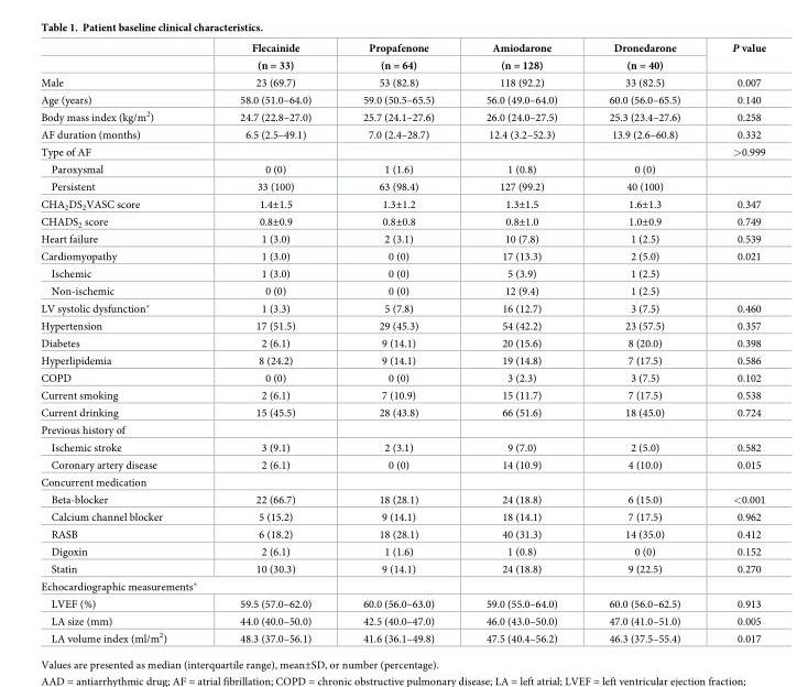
<table><thead><tr><td rowspan="2"></td><td rowspan="2">Flecainide (n = 33)</td><td rowspan="2">Propafenone (n = 64)</td><td rowspan="2">Amiodarone (n = 128)</td><td rowspan="2">Dronedarone (n = 40)</td><td rowspan="2">P value</td></tr><tr></tr></thead><tbody><tr><td>Male</td><td>23 (69.7)</td><td>53 (82.8)</td><td>118 (92.2)</td><td>33 (82.5)</td><td>0.007</td></tr><tr><td>Age (years)</td><td>58.0 (51.0–64.0)</td><td>59.0 (50.5–65.5)</td><td>56.0 (49.0–64.0)</td><td>60.0 (56.0–65.5)</td><td>0.140</td></tr><tr><td>Body mass index (kg/m<sup>2</sup>)</td><td>24.7 (22.8–27.0)</td><td>25.7 (24.1–27.6)</td><td>26.0 (24.0–27.5)</td><td>25.3 (23.4–27.6)</td><td>0.258</td></tr><tr><td>AF duration (months)</td><td>6.5 (2.5–49.1)</td><td>7.0 (2.4–28.7)</td><td>12.4 (3.2–52.3)</td><td>13.9 (2.6–60.8)</td><td>0.332</td></tr><tr><td>Type of AF</td><td></td><td></td><td></td><td></td><td>&gt;0.999</td></tr><tr><td>Paroxysmal</td><td>0 (0)</td><td>1 (1.6)</td><td>1 (0.8)</td><td>0 (0)</td><td></td></tr><tr><td>Persistent</td><td>33 (100)</td><td>63 (98.4)</td><td>127 (99.2)</td><td>40 (100)</td><td></td></tr><tr><td>CHA<sub>2</sub>DS<sub>2</sub>VASC score</td><td>1.4±1.5</td><td>1.3±1.2</td><td>1.3±1.5</td><td>1.6±1.3</td><td>0.347</td></tr><tr><td>CHADS<sub>2</sub> score</td><td>0.8±0.9</td><td>0.8±0.8</td><td>0.8±1.0</td><td>1.0±0.9</td><td>0.749</td></tr><tr><td>Heart failure</td><td>1 (3.0)</td><td>2 (3.1)</td><td>10 (7.8)</td><td>1 (2.5)</td><td>0.539</td></tr><tr><td>Cardiomyopathy</td><td>1 (3.0)</td><td>0 (0)</td><td>17 (13.3)</td><td>2 (5.0)</td><td>0.021</td></tr><tr><td>Ischemic</td><td>1 (3.0)</td><td>0 (0)</td><td>5 (3.9)</td><td>1 (2.5)</td><td></td></tr><tr><td>Non-ischemic</td><td>0 (0)</td><td>0 (0)</td><td>12 (9.4)</td><td>1 (2.5)</td><td></td></tr><tr><td>LV systolic dysfunction*</td><td>1 (3.3)</td><td>5 (7.8)</td><td>16 (12.7)</td><td>3 (7.5)</td><td>0.460</td></tr><tr><td>Hypertension</td><td>17 (51.5)</td><td>29 (45.3)</td><td>54 (42.2)</td><td>23 (57.5)</td><td>0.357</td></tr><tr><td>Diabetes</td><td>2 (6.1)</td><td>9 (14.1)</td><td>20 (15.6)</td><td>8 (20.0)</td><td>0.398</td></tr><tr><td>Hyperlipidemia</td><td>8 (24.2)</td><td>9 (14.1)</td><td>19 (14.8)</td><td>7 (17.5)</td><td>0.586</td></tr><tr><td>COPD</td><td>0 (0)</td><td>0 (0)</td><td>3 (2.3)</td><td>3 (7.5)</td><td>0.102</td></tr><tr><td>Current smoking</td><td>2 (6.1)</td><td>7 (10.9)</td><td>15 (11.7)</td><td>7 (17.5)</td><td>0.538</td></tr><tr><td>Current drinking</td><td>15 (45.5)</td><td>28 (43.8)</td><td>66 (51.6)</td><td>18 (45.0)</td><td>0.724</td></tr><tr><td colspan="6">Previous history of</td></tr><tr><td>Ischemic stroke</td><td>3 (9.1)</td><td>2 (3.1)</td><td>9 (7.0)</td><td>2 (5.0)</td><td>0.582</td></tr><tr><td>Coronary artery disease</td><td>2 (6.1)</td><td>0 (0)</td><td>14 (10.9)</td><td>4 (10.0)</td><td>0.015</td></tr><tr><td colspan="6">Concurrent medication</td></tr><tr><td>Beta-blocker</td><td>22 (66.7)</td><td>18 (28.1)</td><td>24 (18.8)</td><td>6 (15.0)</td><td>&lt;0.001</td></tr><tr><td>Calcium channel blocker</td><td>5 (15.2)</td><td>9 (14.1)</td><td>18 (14.1)</td><td>7 (17.5)</td><td>0.962</td></tr><tr><td>RASB</td><td>6 (18.2)</td><td>18 (28.1)</td><td>40 (31.3)</td><td>14 (35.0)</td><td>0.412</td></tr><tr><td>Digoxin</td><td>2 (6.1)</td><td>1 (1.6)</td><td>1 (0.8)</td><td>0 (0)</td><td>0.152</td></tr><tr><td>Statin</td><td>10 (30.3)</td><td>9 (14.1)</td><td>24 (18.8)</td><td>9 (22.5)</td><td>0.270</td></tr><tr><td colspan="6">Echocardiographic measurements*</td></tr><tr><td>LVEF (%)</td><td>59.5 (57.0–62.0)</td><td>60.0 (56.0–63.0)</td><td>59.0 (55.0–64.0)</td><td>60.0 (56.0–62.5)</td><td>0.913</td></tr><tr><td>LA size (mm)</td><td>44.0 (40.0–50.0)</td><td>42.5 (40.0–47.0)</td><td>46.0 (43.0–50.0)</td><td>47.0 (41.0–51.0)</td><td>0.005</td></tr><tr><td>LA volume index (ml/m<sup>2</sup>)</td><td>48.3 (37.0–56.1)</td><td>41.6 (36.1–49.8)</td><td>47.5 (40.4–56.2)</td><td>46.3 (37.5–55.4)</td><td>0.017</td></tr></tbody></table>